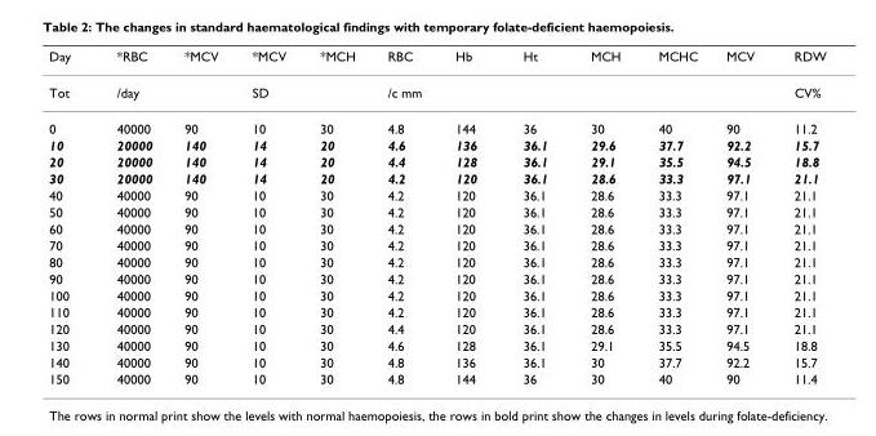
<table><thead><tr><td>Day</td><td>*RBC</td><td>*MCV</td><td>*MCV</td><td>*MCH</td><td>RBC</td><td>Hb</td><td>Ht</td><td>MCH</td><td>MCHC</td><td>MCV</td><td>RDW</td></tr></thead><tbody><tr><td>Tot</td><td>/day</td><td></td><td>SD</td><td></td><td>/c mm</td><td></td><td></td><td></td><td></td><td></td><td>CV%</td></tr><tr><td>0</td><td>40000</td><td>90</td><td>10</td><td>30</td><td>4.8</td><td>144</td><td>36</td><td>30</td><td>40</td><td>90</td><td>11.2</td></tr><tr><td>10</td><td>20000</td><td>140</td><td>14</td><td>20</td><td>4.6</td><td>136</td><td>36.1</td><td>29.6</td><td>37.7</td><td>92.2</td><td>15.7</td></tr><tr><td>20</td><td>20000</td><td>140</td><td>14</td><td>20</td><td>4.4</td><td>128</td><td>36.1</td><td>29.1</td><td>35.5</td><td>94.5</td><td>18.8</td></tr><tr><td>30</td><td>20000</td><td>140</td><td>14</td><td>20</td><td>4.2</td><td>120</td><td>36.1</td><td>28.6</td><td>33.3</td><td>97.1</td><td>21.1</td></tr><tr><td>40</td><td>40000</td><td>90</td><td>10</td><td>30</td><td>4.2</td><td>120</td><td>36.1</td><td>28.6</td><td>33.3</td><td>97.1</td><td>21.1</td></tr><tr><td>50</td><td>40000</td><td>90</td><td>10</td><td>30</td><td>4.2</td><td>120</td><td>36.1</td><td>28.6</td><td>33.3</td><td>97.1</td><td>21.1</td></tr><tr><td>60</td><td>40000</td><td>90</td><td>10</td><td>30</td><td>4.2</td><td>120</td><td>36.1</td><td>28.6</td><td>33.3</td><td>97.1</td><td>21.1</td></tr><tr><td>70</td><td>40000</td><td>90</td><td>10</td><td>30</td><td>4.2</td><td>120</td><td>36.1</td><td>28.6</td><td>33.3</td><td>97.1</td><td>21.1</td></tr><tr><td>80</td><td>40000</td><td>90</td><td>10</td><td>30</td><td>4.2</td><td>120</td><td>36.1</td><td>28.6</td><td>33.3</td><td>97.1</td><td>21.1</td></tr><tr><td>90</td><td>40000</td><td>90</td><td>10</td><td>30</td><td>4.2</td><td>120</td><td>36.1</td><td>28.6</td><td>33.3</td><td>97.1</td><td>21.1</td></tr><tr><td>100</td><td>40000</td><td>90</td><td>10</td><td>30</td><td>4.2</td><td>120</td><td>36.1</td><td>28.6</td><td>33.3</td><td>97.1</td><td>21.1</td></tr><tr><td>110</td><td>40000</td><td>90</td><td>10</td><td>30</td><td>4.2</td><td>120</td><td>36.1</td><td>28.6</td><td>33.3</td><td>97.1</td><td>21.1</td></tr><tr><td>120</td><td>40000</td><td>90</td><td>10</td><td>30</td><td>4.4</td><td>120</td><td>36.1</td><td>28.6</td><td>33.3</td><td>97.1</td><td>21.1</td></tr><tr><td>130</td><td>40000</td><td>90</td><td>10</td><td>30</td><td>4.6</td><td>128</td><td>36.1</td><td>29.1</td><td>35.5</td><td>94.5</td><td>18.8</td></tr><tr><td>140</td><td>40000</td><td>90</td><td>10</td><td>30</td><td>4.8</td><td>136</td><td>36.1</td><td>30</td><td>37.7</td><td>92.2</td><td>15.7</td></tr><tr><td>150</td><td>40000</td><td>90</td><td>10</td><td>30</td><td>4.8</td><td>144</td><td>36</td><td>30</td><td>40</td><td>90</td><td>11.4</td></tr></tbody></table>